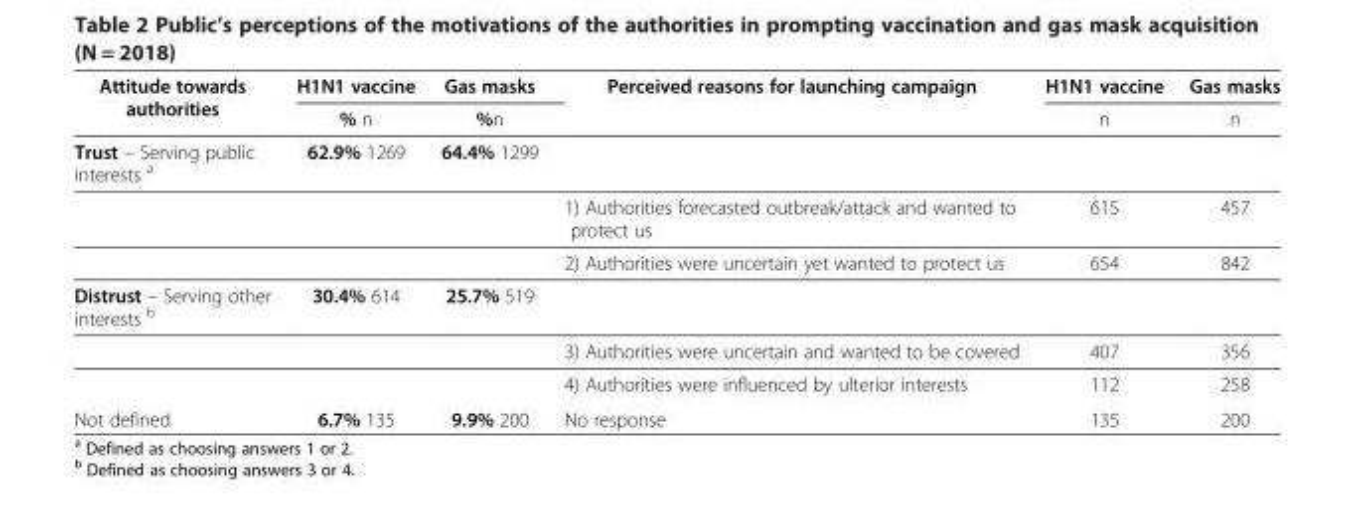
<table><thead><tr><td rowspan="2">Attitude towards authorities</td><td rowspan="2">H1N1 vaccine % n</td><td rowspan="2">Gas masks %n</td><td rowspan="2">Perceived reasons for launching campaign</td><td rowspan="2">H1N1 vaccine n</td><td rowspan="2">Gas masks n</td></tr><tr></tr></thead><tbody><tr><td rowspan="3">Trust – Serving public interests <sup>a</sup></td><td>62.9% 1269</td><td>64.4% 1299</td><td></td><td></td><td></td></tr><tr><td></td><td></td><td>1) Authorities forecasted outbreak/attack and wanted to protect us</td><td>615</td><td>457</td></tr><tr><td></td><td></td><td>2) Authorities were uncertain yet wanted to protect us</td><td>654</td><td>842</td></tr><tr><td rowspan="3">Distrust – Serving other interests <sup>b</sup></td><td>30.4% 614</td><td>25.7% 519</td><td></td><td></td><td></td></tr><tr><td></td><td></td><td>3) Authorities were uncertain and wanted to be covered</td><td>407</td><td>356</td></tr><tr><td></td><td></td><td>4) Authorities were influenced by ulterior interests</td><td>112</td><td>258</td></tr><tr><td>Not defined</td><td>6.7% 135</td><td>9.9% 200</td><td>No response</td><td>135</td><td>200</td></tr></tbody></table>